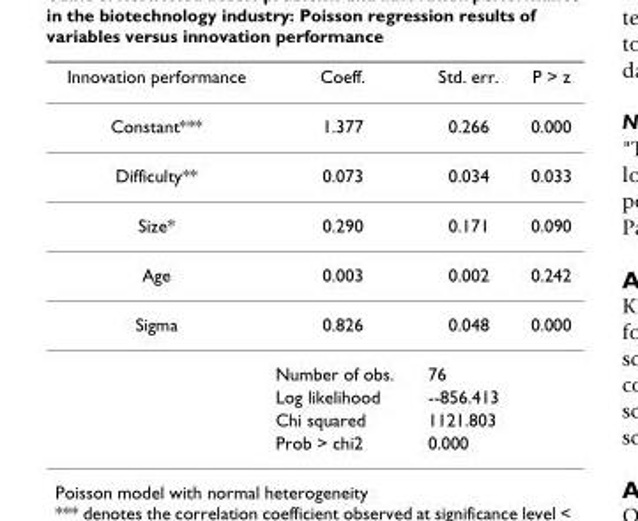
<table><thead><tr><td>Innovation performance</td><td>Coeff.</td><td>Std. err.</td><td>P &gt; z</td></tr></thead><tbody><tr><td>Constant***</td><td>1.377</td><td>0.266</td><td>0.000</td></tr><tr><td>Difficulty**</td><td>0.073</td><td>0.034</td><td>0.033</td></tr><tr><td>Size*</td><td>0.290</td><td>0.171</td><td>0.090</td></tr><tr><td>Age</td><td>0.003</td><td>0.002</td><td>0.242</td></tr><tr><td rowspan="5">Sigma</td><td>0.826</td><td>0.048</td><td>0.000</td></tr><tr><td>Number of obs.</td><td>76</td><td></td></tr><tr><td>Log likelihood</td><td>--856.413</td><td></td></tr><tr><td>Chi squared</td><td>1121.803</td><td></td></tr><tr><td>Prob &gt; chi2</td><td>0.000</td><td></td></tr></tbody></table>